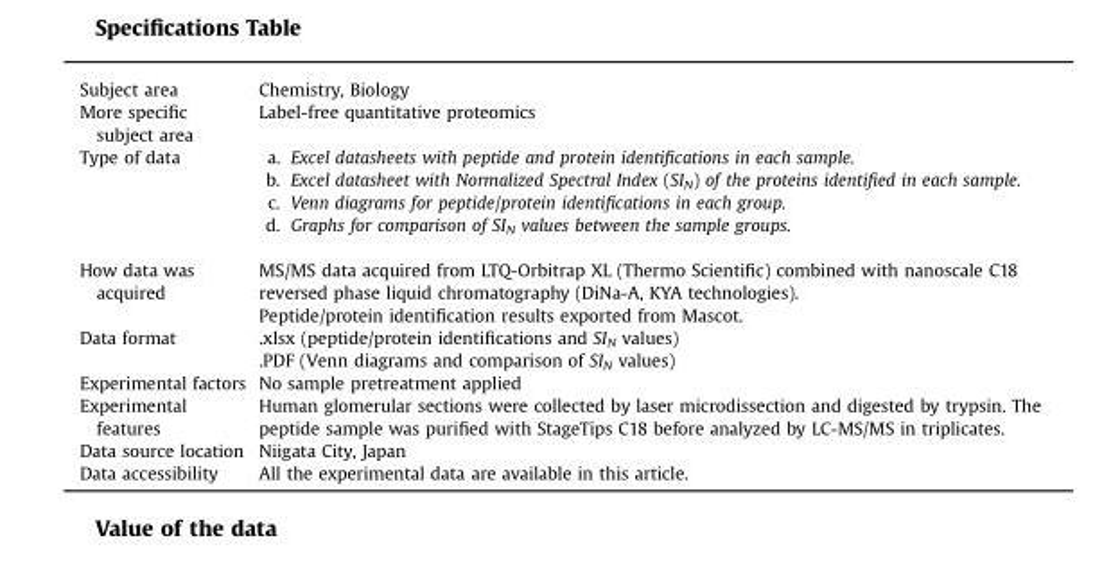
<table><tbody><tr><td>Subject area</td><td>Chemistry, Biology</td></tr><tr><td>More specific subject area</td><td>Label-free quantitative proteomics</td></tr><tr><td>Type of data</td><td>a. Excel datasheets with peptide and protein identifications in each sample. b. Excel datasheet with Normalized Spectral Index (SI<sub>N</sub>) of the proteins identified in each sample. c. Venn diagrams for peptide/protein identifications in each group. d. Graphs for comparison of SI<sub>N</sub> values between the sample groups.</td></tr><tr><td rowspan="2">How data was acquired</td><td>MS/MS data acquired from LTQ-Orbitrap XL (Thermo Scientific) combined with nanoscale C18 reversed phase liquid chromatography (DiNa-A, KYA technologies).</td></tr><tr><td>Peptide/protein identification results exported from Mascot.</td></tr><tr><td rowspan="2">Data format</td><td>.xlsx (peptide/protein identifications and SI<sub>N</sub> values)</td></tr><tr><td>.PDF (Venn diagrams and comparison of SI<sub>N</sub> values)</td></tr><tr><td>Experimental factors</td><td>No sample pretreatment applied</td></tr><tr><td>Experimental features</td><td>Human glomerular sections were collected by laser microdissection and digested by trypsin. The peptide sample was purified with StageTips C18 before analyzed by LC-MS/MS in triplicates.</td></tr><tr><td>Data source location</td><td>Niigata City, Japan</td></tr><tr><td>Data accessibility</td><td>All the experimental data are available in this article.</td></tr></tbody></table>